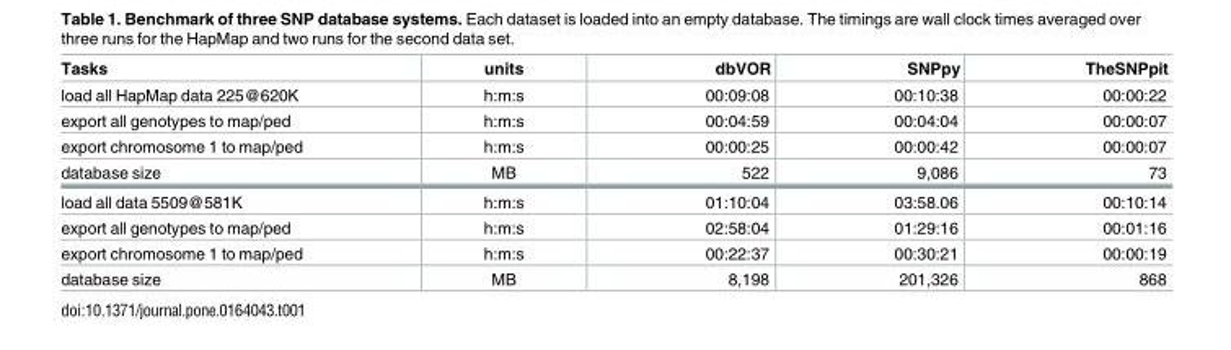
<table><thead><tr><td>Tasks</td><td>units</td><td>dbVOR</td><td>SNPpy</td><td>TheSNPpit</td></tr></thead><tbody><tr><td>load all HapMap data 225@620K</td><td>h:m:s</td><td>00:09:08</td><td>00:10:38</td><td>00:00:22</td></tr><tr><td>export all genotypes to map/ped</td><td>h:m:s</td><td>00:04:59</td><td>00:04:04</td><td>00:00:07</td></tr><tr><td>export chromosome 1 to map/ped</td><td>h:m:s</td><td>00:00:25</td><td>00:00:42</td><td>00:00:07</td></tr><tr><td>database size</td><td>MB</td><td>522</td><td>9,086</td><td>73</td></tr><tr><td>load all data 5509@581K</td><td>h:m:s</td><td>01:10:04</td><td>03:58.06</td><td>00:10:14</td></tr><tr><td>export all genotypes to map/ped</td><td>h:m:s</td><td>02:58:04</td><td>01:29:16</td><td>00:01:16</td></tr><tr><td>export chromosome 1 to map/ped</td><td>h:m:s</td><td>00:22:37</td><td>00:30:21</td><td>00:00:19</td></tr><tr><td>database size</td><td>MB</td><td>8,198</td><td>201,326</td><td>868</td></tr></tbody></table>